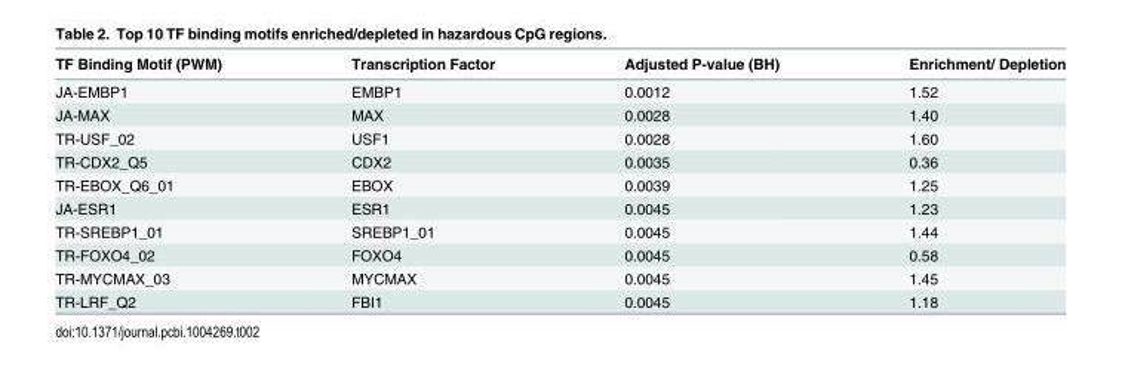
<table><thead><tr><td>TF Binding Motif (PWM)</td><td>Transcription Factor</td><td>Adjusted P-value (BH)</td><td>Enrichment/ Depletion</td></tr></thead><tbody><tr><td>JA-EMBP1</td><td>EMBP1</td><td>0.0012</td><td>1.52</td></tr><tr><td>JA-MAX</td><td>MAX</td><td>0.0028</td><td>1.40</td></tr><tr><td>TR-USF_02</td><td>USF1</td><td>0.0028</td><td>1.60</td></tr><tr><td>TR-CDX2_Q5</td><td>CDX2</td><td>0.0035</td><td>0.36</td></tr><tr><td>TR-EBOX_Q6_01</td><td>EBOX</td><td>0.0039</td><td>1.25</td></tr><tr><td>JA-ESR1</td><td>ESR1</td><td>0.0045</td><td>1.23</td></tr><tr><td>TR-SREBP1_01</td><td>SREBP1_01</td><td>0.0045</td><td>1.44</td></tr><tr><td>TR-FOXO4_02</td><td>FOXO4</td><td>0.0045</td><td>0.58</td></tr><tr><td>TR-MYCMAX_03</td><td>MYCMAX</td><td>0.0045</td><td>1.45</td></tr><tr><td>TR-LRF_Q2</td><td>FBI1</td><td>0.0045</td><td>1.18</td></tr></tbody></table>